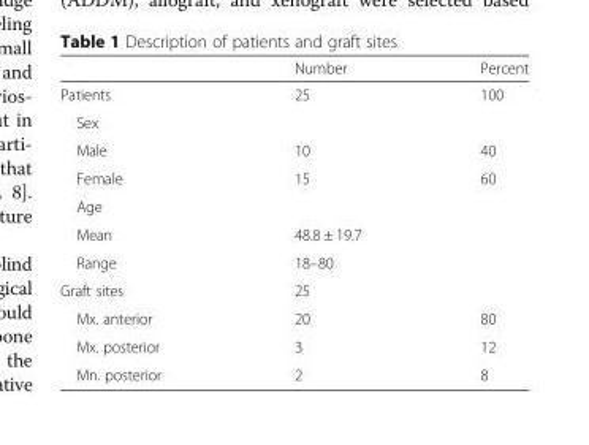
<table><thead><tr><td></td><td>Number</td><td>Percent</td></tr></thead><tbody><tr><td>Patients</td><td>25</td><td>100</td></tr><tr><td colspan="3">Sex</td></tr><tr><td>Male</td><td>10</td><td>40</td></tr><tr><td>Female</td><td>15</td><td>60</td></tr><tr><td colspan="3">Age</td></tr><tr><td>Mean</td><td colspan="2">48.8 ± 19.7</td></tr><tr><td>Range</td><td colspan="2">18–80</td></tr><tr><td>Graft sites</td><td>25</td><td></td></tr><tr><td>Mx. anterior</td><td>20</td><td>80</td></tr><tr><td>Mx. posterior</td><td>3</td><td>12</td></tr><tr><td>Mn. posterior</td><td>2</td><td>8</td></tr></tbody></table>